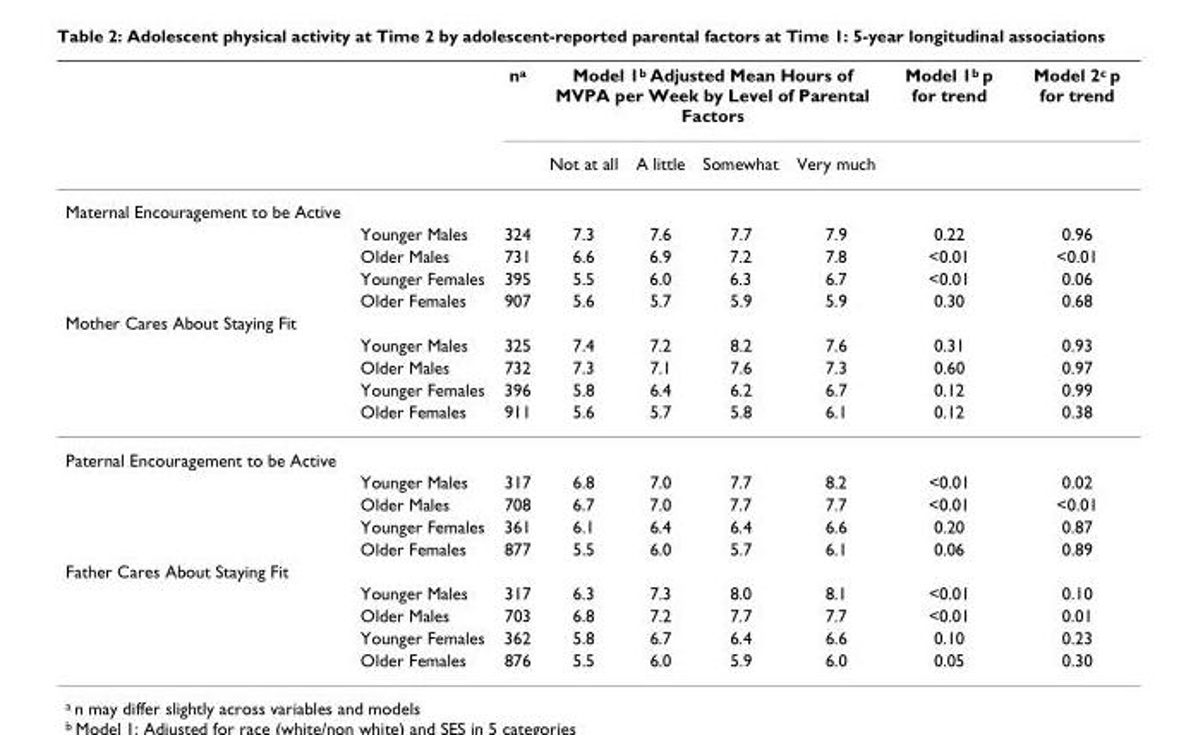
<table><thead><tr><td rowspan="2"></td><td rowspan="2"></td><td rowspan="2">n<sup>a</sup></td><td colspan="4">Model 1<sup>b</sup> Adjusted Mean Hours of MVPA per Week by Level of Parental Factors</td><td rowspan="2">Model 1<sup>b</sup> p for trend</td><td rowspan="2">Model 2<sup>c</sup> p for trend</td></tr><tr><td>Not at all</td><td>A little</td><td>Somewhat</td><td>Very much</td></tr></thead><tbody><tr><td colspan="9">Maternal Encouragement to be Active</td></tr><tr><td></td><td>Younger Males</td><td>324</td><td>7.3</td><td>7.6</td><td>7.7</td><td>7.9</td><td>0.22</td><td>0.96</td></tr><tr><td></td><td>Older Males</td><td>731</td><td>6.6</td><td>6.9</td><td>7.2</td><td>7.8</td><td>&lt;0.01</td><td>&lt;0.01</td></tr><tr><td></td><td>Younger Females</td><td>395</td><td>5.5</td><td>6.0</td><td>6.3</td><td>6.7</td><td>&lt;0.01</td><td>0.06</td></tr><tr><td></td><td>Older Females</td><td>907</td><td>5.6</td><td>5.7</td><td>5.9</td><td>5.9</td><td>0.30</td><td>0.68</td></tr><tr><td colspan="9">Mother Cares About Staying Fit</td></tr><tr><td></td><td>Younger Males</td><td>325</td><td>7.4</td><td>7.2</td><td>8.2</td><td>7.6</td><td>0.31</td><td>0.93</td></tr><tr><td></td><td>Older Males</td><td>732</td><td>7.3</td><td>7.1</td><td>7.6</td><td>7.3</td><td>0.60</td><td>0.97</td></tr><tr><td></td><td>Younger Females</td><td>396</td><td>5.8</td><td>6.4</td><td>6.2</td><td>6.7</td><td>0.12</td><td>0.99</td></tr><tr><td></td><td>Older Females</td><td>911</td><td>5.6</td><td>5.7</td><td>5.8</td><td>6.1</td><td>0.12</td><td>0.38</td></tr><tr><td colspan="9">Paternal Encouragement to be Active</td></tr><tr><td></td><td>Younger Males</td><td>317</td><td>6.8</td><td>7.0</td><td>7.7</td><td>8.2</td><td>&lt;0.01</td><td>0.02</td></tr><tr><td></td><td>Older Males</td><td>708</td><td>6.7</td><td>7.0</td><td>7.7</td><td>7.7</td><td>&lt;0.01</td><td>&lt;0.01</td></tr><tr><td></td><td>Younger Females</td><td>361</td><td>6.1</td><td>6.4</td><td>6.4</td><td>6.6</td><td>0.20</td><td>0.87</td></tr><tr><td></td><td>Older Females</td><td>877</td><td>5.5</td><td>6.0</td><td>5.7</td><td>6.1</td><td>0.06</td><td>0.89</td></tr><tr><td colspan="9">Father Cares About Staying Fit</td></tr><tr><td></td><td>Younger Males</td><td>317</td><td>6.3</td><td>7.3</td><td>8.0</td><td>8.1</td><td>&lt;0.01</td><td>0.10</td></tr><tr><td></td><td>Older Males</td><td>703</td><td>6.8</td><td>7.2</td><td>7.7</td><td>7.7</td><td>&lt;0.01</td><td>0.01</td></tr><tr><td></td><td>Younger Females</td><td>362</td><td>5.8</td><td>6.7</td><td>6.4</td><td>6.6</td><td>0.10</td><td>0.23</td></tr><tr><td></td><td>Older Females</td><td>876</td><td>5.5</td><td>6.0</td><td>5.9</td><td>6.0</td><td>0.05</td><td>0.30</td></tr></tbody></table>